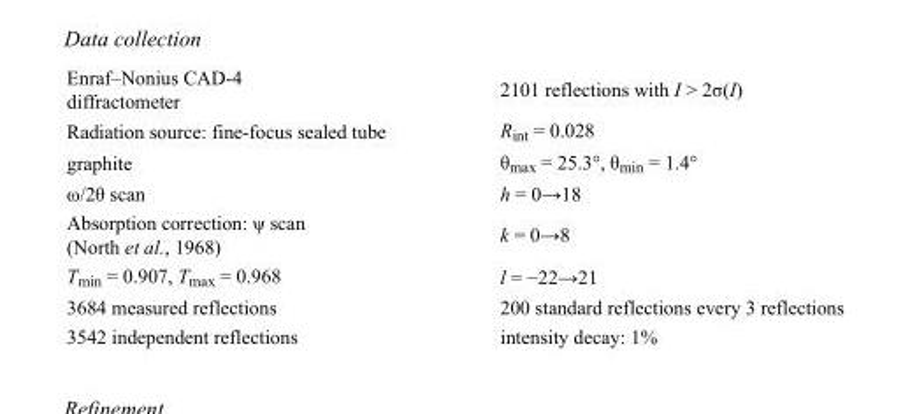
<table><tbody><tr><td>Enraf–Nonius CAD-4 diffractometer</td><td>2101 reflections with I &gt; 2σ(I)</td></tr><tr><td>Radiation source: fine-focus sealed tube</td><td>R<sub>int</sub> = 0.028</td></tr><tr><td>graphite</td><td>θ<sub>max</sub> = 25.3°, θ<sub>min</sub> = 1.4°</td></tr><tr><td>ω/2θ scan</td><td>h = 0→18</td></tr><tr><td>Absorption correction: ψ scan (North et al., 1968)</td><td>k = 0→8</td></tr><tr><td>T<sub>min</sub> = 0.907, T<sub>max</sub> = 0.968</td><td>l = −22→21</td></tr><tr><td>3684 measured reflections</td><td>200 standard reflections every 3 reflections</td></tr><tr><td>3542 independent reflections</td><td>intensity decay: 1%</td></tr></tbody></table>